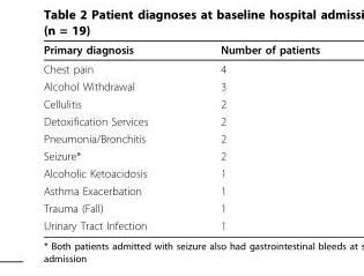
<table><thead><tr><td>Primary diagnosis</td><td>Number of patients</td></tr></thead><tbody><tr><td>Chest pain</td><td>4</td></tr><tr><td>Alcohol Withdrawal</td><td>3</td></tr><tr><td>Cellulitis</td><td>2</td></tr><tr><td>Detoxification Services</td><td>2</td></tr><tr><td>Pneumonia/Bronchitis</td><td>2</td></tr><tr><td>Seizure*</td><td>2</td></tr><tr><td>Alcoholic Ketoacidosis</td><td>1</td></tr><tr><td>Asthma Exacerbation</td><td>1</td></tr><tr><td>Trauma (Fall)</td><td>1</td></tr><tr><td>Urinary Tract Infection</td><td>1</td></tr></tbody></table>